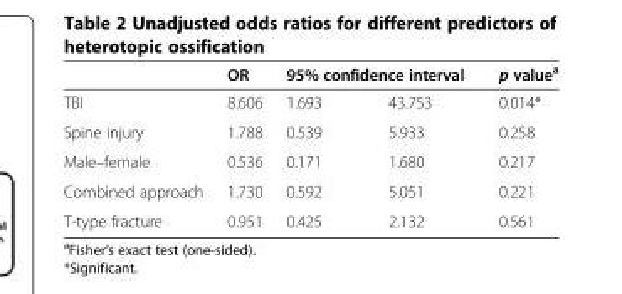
<table><thead><tr><td rowspan="2">TBI</td><td rowspan="2">OR 8.606</td><td colspan="2">95% confidence interval</td><td rowspan="2">p value<sup>a</sup> 0.014*</td></tr><tr><td>1.693</td><td>43.753</td></tr></thead><tbody><tr><td>Spine injury</td><td>1.788</td><td>0.539</td><td>5.933</td><td>0.258</td></tr><tr><td>Male–female</td><td>0.536</td><td>0.171</td><td>1.680</td><td>0.217</td></tr><tr><td>Combined approach</td><td>1.730</td><td>0.592</td><td>5.051</td><td>0.221</td></tr><tr><td>T-type fracture</td><td>0.951</td><td>0.425</td><td>2.132</td><td>0.561</td></tr></tbody></table>